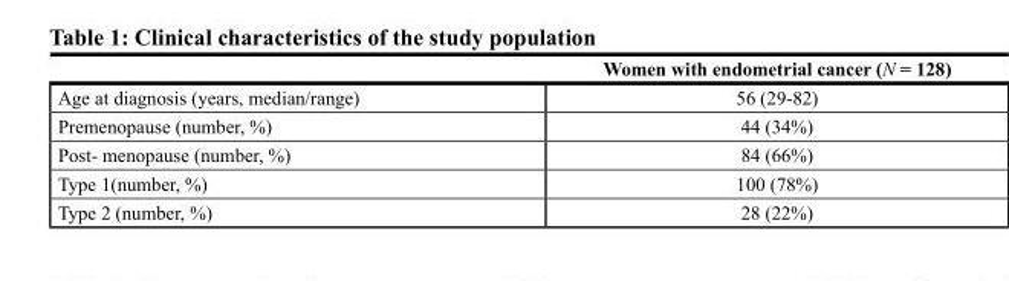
<table><thead><tr><td></td><td>Women with endometrial cancer (N = 128)</td></tr></thead><tbody><tr><td>Age at diagnosis (years, median/range)</td><td>56 (29-82)</td></tr><tr><td>Premenopause (number, %)</td><td>44 (34%)</td></tr><tr><td>Post- menopause (number, %)</td><td>84 (66%)</td></tr><tr><td>Type 1(number, %)</td><td>100 (78%)</td></tr><tr><td>Type 2 (number, %)</td><td>28 (22%)</td></tr></tbody></table>